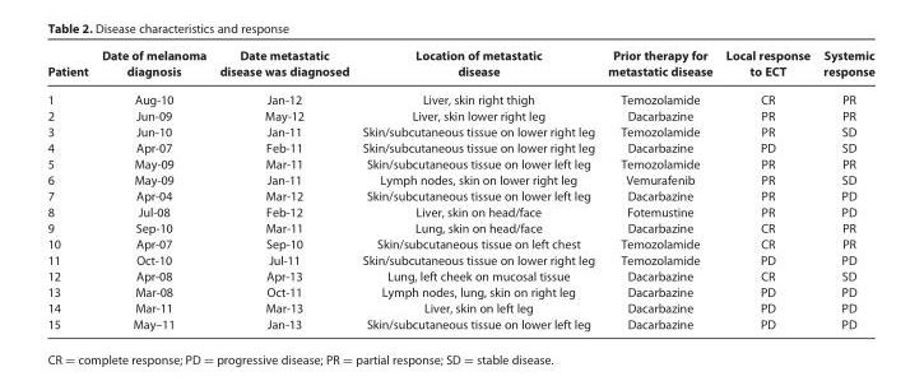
<table><thead><tr><td>Patient</td><td>Date of melanoma diagnosis</td><td>Date metastatic disease was diagnosed</td><td>Location of metastatic disease</td><td>Prior therapy for metastatic disease</td><td>Local response to ECT</td><td>Systemic response</td></tr></thead><tbody><tr><td>1</td><td>Aug-10</td><td>Jan-12</td><td>Liver, skin right thigh</td><td>Temozolamide</td><td>CR</td><td>PR</td></tr><tr><td>2</td><td>Jun-09</td><td>May-12</td><td>Liver, skin lower right leg</td><td>Dacarbazine</td><td>PR</td><td>PR</td></tr><tr><td>3</td><td>Jun-10</td><td>Jan-11</td><td>Skin/subcutaneous tissue on lower right leg</td><td>Temozolamide</td><td>PR</td><td>SD</td></tr><tr><td>4</td><td>Apr-07</td><td>Feb-11</td><td>Skin/subcutaneous tissue on lower right leg</td><td>Dacarbazine</td><td>PD</td><td>SD</td></tr><tr><td>5</td><td>May-09</td><td>Mar-11</td><td>Skin/subcutaneous tissue on lower left leg</td><td>Temozolamide</td><td>PR</td><td>PR</td></tr><tr><td>6</td><td>May-09</td><td>Jan-11</td><td>Lymph nodes, skin on lower right leg</td><td>Vemurafenib</td><td>PR</td><td>SD</td></tr><tr><td>7</td><td>Apr-04</td><td>Mar-12</td><td>Skin/subcutaneous tissue on lower left leg</td><td>Dacarbazine</td><td>PR</td><td>PD</td></tr><tr><td>8</td><td>Jul-08</td><td>Feb-12</td><td>Liver, skin on head/face</td><td>Fotemustine</td><td>PR</td><td>PD</td></tr><tr><td>9</td><td>Sep-10</td><td>Mar-11</td><td>Lung, skin on head/face</td><td>Dacarbazine</td><td>CR</td><td>PR</td></tr><tr><td>10</td><td>Apr-07</td><td>Sep-10</td><td>Skin/subcutaneous tissue on left chest</td><td>Temozolamide</td><td>CR</td><td>PR</td></tr><tr><td>11</td><td>Oct-10</td><td>Jul-11</td><td>Skin/subcutaneous tissue on lower right leg</td><td>Temozolamide</td><td>PD</td><td>PD</td></tr><tr><td>12</td><td>Apr-08</td><td>Apr-13</td><td>Lung, left cheek on mucosal tissue</td><td>Dacarbazine</td><td>CR</td><td>SD</td></tr><tr><td>13</td><td>Mar-08</td><td>Oct-11</td><td>Lymph nodes, lung, skin on right leg</td><td>Dacarbazine</td><td>PD</td><td>PD</td></tr><tr><td>14</td><td>Mar-11</td><td>Mar-13</td><td>Liver, skin on left leg</td><td>Dacarbazine</td><td>PD</td><td>PD</td></tr><tr><td>15</td><td>May–11</td><td>Jan-13</td><td>Skin/subcutaneous tissue on lower left leg</td><td>Dacarbazine</td><td>PD</td><td>PD</td></tr></tbody></table>